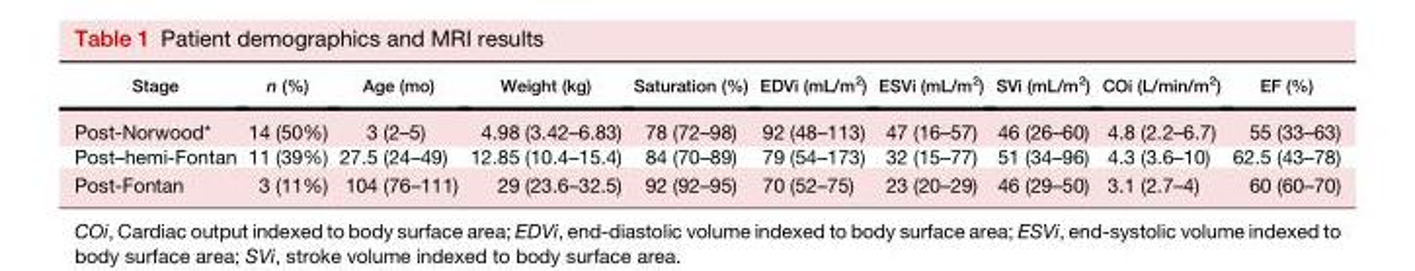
<table><thead><tr><td>Stage</td><td>n (%)</td><td>Age (mo)</td><td>Weight (kg)</td><td>Saturation (%)</td><td>EDVi (mL/m<sup>2</sup>)</td><td>ESVi (mL/m<sup>2</sup>)</td><td>SVi (mL/m<sup>2</sup>)</td><td>COi (L/min/m<sup>2</sup>)</td><td>EF (%)</td></tr></thead><tbody><tr><td>Post-Norwood*</td><td>14 (50%)</td><td>3 (2–5)</td><td>4.98 (3.42–6.83)</td><td>78 (72–98)</td><td>92 (48–113)</td><td>47 (16–57)</td><td>46 (26–60)</td><td>4.8 (2.2–6.7)</td><td>55 (33–63)</td></tr><tr><td>Post–hemi-Fontan</td><td>11 (39%)</td><td>27.5 (24–49)</td><td>12.85 (10.4–15.4)</td><td>84 (70–89)</td><td>79 (54–173)</td><td>32 (15–77)</td><td>51 (34–96)</td><td>4.3 (3.6–10)</td><td>62.5 (43–78)</td></tr><tr><td>Post-Fontan</td><td>3 (11%)</td><td>104 (76–111)</td><td>29 (23.6–32.5)</td><td>92 (92–95)</td><td>70 (52–75)</td><td>23 (20–29)</td><td>46 (29–50)</td><td>3.1 (2.7–4)</td><td>60 (60–70)</td></tr></tbody></table>